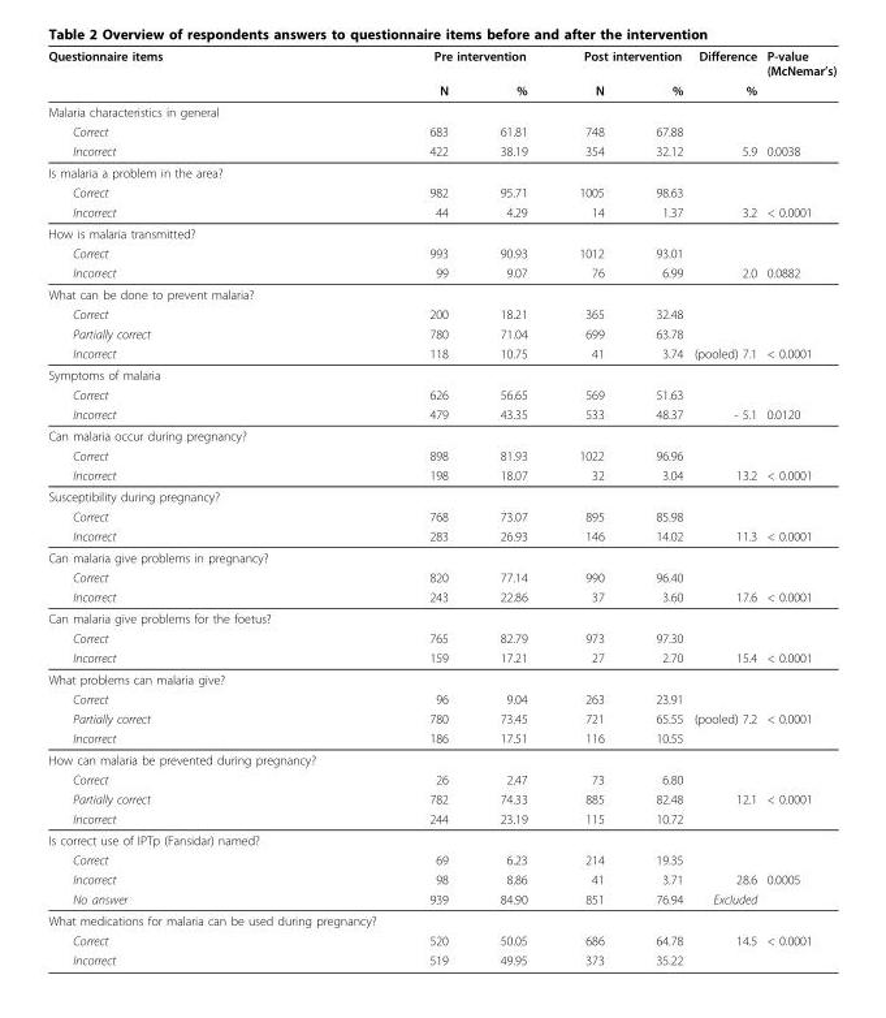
<table><thead><tr><td rowspan="2">Questionnaire items</td><td colspan="2">Pre intervention</td><td colspan="2">Post intervention</td><td rowspan="2">Difference %</td><td rowspan="2">P-value (McNemar’s)</td></tr><tr><td>N</td><td>%</td><td>N</td><td>%</td></tr></thead><tbody><tr><td colspan="7">Malaria characteristics in general</td></tr><tr><td>Correct</td><td>683</td><td>61.81</td><td>748</td><td>67.88</td><td></td><td></td></tr><tr><td>Incorrect</td><td>422</td><td>38.19</td><td>354</td><td>32.12</td><td>5.9</td><td>0.0038</td></tr><tr><td colspan="7">Is malaria a problem in the area?</td></tr><tr><td>Correct</td><td>982</td><td>95.71</td><td>1005</td><td>98.63</td><td></td><td></td></tr><tr><td>Incorrect</td><td>44</td><td>4.29</td><td>14</td><td>1.37</td><td>3.2</td><td>&lt; 0.0001</td></tr><tr><td colspan="7">How is malaria transmitted?</td></tr><tr><td>Correct</td><td>993</td><td>90.93</td><td>1012</td><td>93.01</td><td></td><td></td></tr><tr><td>Incorrect</td><td>99</td><td>9.07</td><td>76</td><td>6.99</td><td>2.0</td><td>0.0882</td></tr><tr><td colspan="7">What can be done to prevent malaria?</td></tr><tr><td>Correct</td><td>200</td><td>18.21</td><td>365</td><td>32.48</td><td></td><td></td></tr><tr><td>Partially correct</td><td>780</td><td>71.04</td><td>699</td><td>63.78</td><td></td><td></td></tr><tr><td>Incorrect</td><td>118</td><td>10.75</td><td>41</td><td>3.74</td><td>(pooled) 7.1</td><td>&lt; 0.0001</td></tr><tr><td colspan="7">Symptoms of malaria</td></tr><tr><td>Correct</td><td>626</td><td>56.65</td><td>569</td><td>51.63</td><td></td><td></td></tr><tr><td>Incorrect</td><td>479</td><td>43.35</td><td>533</td><td>48.37</td><td>- 5.1</td><td>0.0120</td></tr><tr><td colspan="7">Can malaria occur during pregnancy?</td></tr><tr><td>Correct</td><td>898</td><td>81.93</td><td>1022</td><td>96.96</td><td></td><td></td></tr><tr><td>Incorrect</td><td>198</td><td>18.07</td><td>32</td><td>3.04</td><td>13.2</td><td>&lt; 0.0001</td></tr><tr><td colspan="7">Susceptibility during pregnancy?</td></tr><tr><td>Correct</td><td>768</td><td>73.07</td><td>895</td><td>85.98</td><td></td><td></td></tr><tr><td>Incorrect</td><td>283</td><td>26.93</td><td>146</td><td>14.02</td><td>11.3</td><td>&lt; 0.0001</td></tr><tr><td colspan="7">Can malaria give problems in pregnancy?</td></tr><tr><td>Correct</td><td>820</td><td>77.14</td><td>990</td><td>96.40</td><td></td><td></td></tr><tr><td>Incorrect</td><td>243</td><td>22.86</td><td>37</td><td>3.60</td><td>17.6</td><td>&lt; 0.0001</td></tr><tr><td colspan="7">Can malaria give problems for the foetus?</td></tr><tr><td>Correct</td><td>765</td><td>82.79</td><td>973</td><td>97.30</td><td></td><td></td></tr><tr><td>Incorrect</td><td>159</td><td>17.21</td><td>27</td><td>2.70</td><td>15.4</td><td>&lt; 0.0001</td></tr><tr><td colspan="7">What problems can malaria give?</td></tr><tr><td>Correct</td><td>96</td><td>9.04</td><td>263</td><td>23.91</td><td></td><td></td></tr><tr><td>Partially correct</td><td>780</td><td>73.45</td><td>721</td><td>65.55</td><td>(pooled) 7.2</td><td>&lt; 0.0001</td></tr><tr><td>Incorrect</td><td>186</td><td>17.51</td><td>116</td><td>10.55</td><td></td><td></td></tr><tr><td colspan="7">How can malaria be prevented during pregnancy?</td></tr><tr><td>Correct</td><td>26</td><td>2.47</td><td>73</td><td>6.80</td><td></td><td></td></tr><tr><td>Partially correct</td><td>782</td><td>74.33</td><td>885</td><td>82.48</td><td>12.1</td><td>&lt; 0.0001</td></tr><tr><td>Incorrect</td><td>244</td><td>23.19</td><td>115</td><td>10.72</td><td></td><td></td></tr><tr><td colspan="7">Is correct use of IPTp (Fansidar) named?</td></tr><tr><td>Correct</td><td>69</td><td>6.23</td><td>214</td><td>19.35</td><td></td><td></td></tr><tr><td>Incorrect</td><td>98</td><td>8.86</td><td>41</td><td>3.71</td><td>28.6</td><td>0.0005</td></tr><tr><td>No answer</td><td>939</td><td>84.90</td><td>851</td><td>76.94</td><td>Excluded</td><td></td></tr><tr><td colspan="7">What medications for malaria can be used during pregnancy?</td></tr><tr><td>Correct</td><td>520</td><td>50.05</td><td>686</td><td>64.78</td><td>14.5</td><td>&lt; 0.0001</td></tr><tr><td>Incorrect</td><td>519</td><td>49.95</td><td>373</td><td>35.22</td><td></td><td></td></tr></tbody></table>